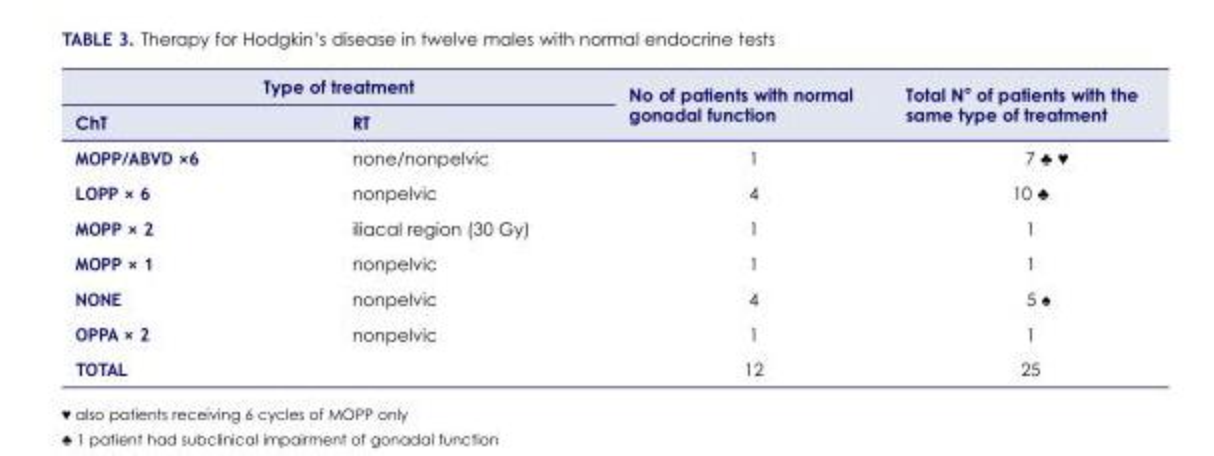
<table><thead><tr><td colspan="2">Type of treatment</td><td rowspan="2">No of patients with normal gonadal function</td><td rowspan="2">Total N° of patients with the same type of treatment</td></tr><tr><td>ChT</td><td>RT</td></tr></thead><tbody><tr><td>MOPP/ABVD ×6</td><td>none/nonpelvic</td><td>1</td><td>7 ♣ ♥</td></tr><tr><td>LOPP × 6</td><td>nonpelvic</td><td>4</td><td>10 ♣</td></tr><tr><td>MOPP × 2</td><td>iliacal region (30 Gy)</td><td>1</td><td>1</td></tr><tr><td>MOPP × 1</td><td>nonpelvic</td><td>1</td><td>1</td></tr><tr><td>NONE</td><td>nonpelvic</td><td>4</td><td>5 ♠</td></tr><tr><td>OPPA × 2</td><td>nonpelvic</td><td>1</td><td>1</td></tr><tr><td>TOTAL</td><td></td><td>12</td><td>25</td></tr></tbody></table>